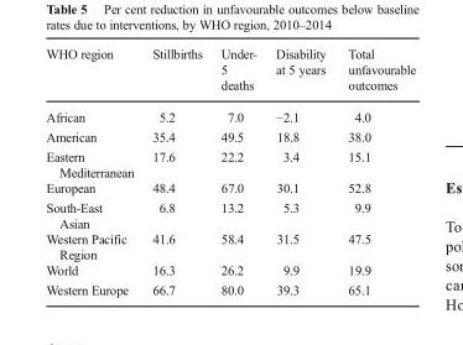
<table><thead><tr><td>WHO region</td><td>Stillbirths</td><td>Under- 5 deaths</td><td>Disability at 5 years</td><td>Total unfavourable outcomes</td></tr></thead><tbody><tr><td>African</td><td>5.2</td><td>7.0</td><td>−2.1</td><td>4.0</td></tr><tr><td>American</td><td>35.4</td><td>49.5</td><td>18.8</td><td>38.0</td></tr><tr><td>Eastern Mediterranean</td><td>17.6</td><td>22.2</td><td>3.4</td><td>15.1</td></tr><tr><td>European</td><td>48.4</td><td>67.0</td><td>30.1</td><td>52.8</td></tr><tr><td>South-East Asian</td><td>6.8</td><td>13.2</td><td>5.3</td><td>9.9</td></tr><tr><td>Western Pacific Region</td><td>41.6</td><td>58.4</td><td>31.5</td><td>47.5</td></tr><tr><td>World</td><td>16.3</td><td>26.2</td><td>9.9</td><td>19.9</td></tr><tr><td>Western Europe</td><td>66.7</td><td>80.0</td><td>39.3</td><td>65.1</td></tr></tbody></table>